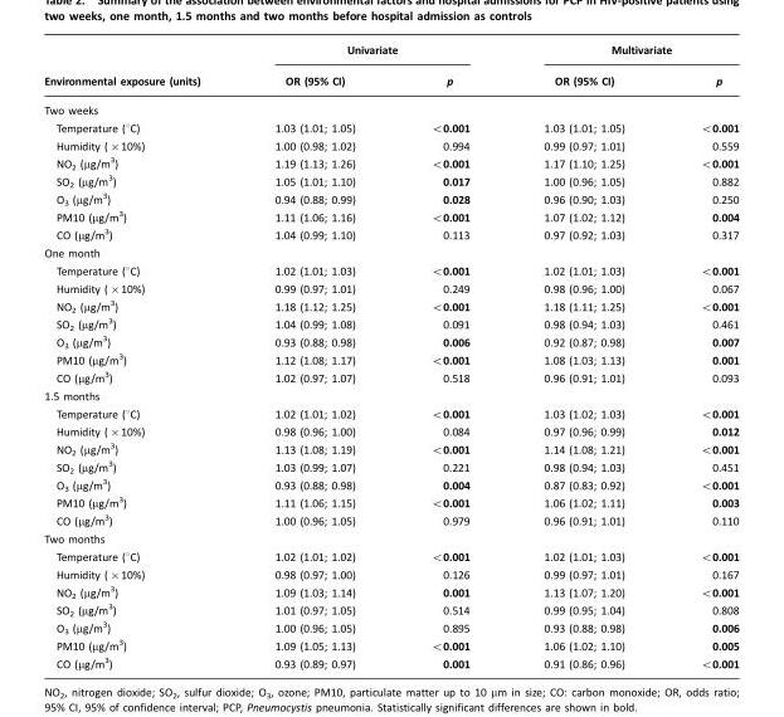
<table><thead><tr><td rowspan="2">Environmental exposure (units)</td><td colspan="2">Univariate</td><td colspan="2">Multivariate</td></tr><tr><td>OR (95% CI)</td><td>p</td><td>OR (95% CI)</td><td>p</td></tr></thead><tbody><tr><td colspan="5">Two weeks</td></tr><tr><td>Temperature (°C)</td><td>1.03 (1.01; 1.05)</td><td>&lt;0.001</td><td>1.03 (1.01; 1.05)</td><td>&lt;0.001</td></tr><tr><td>Humidity (×10%)</td><td>1.00 (0.98; 1.02)</td><td>0.994</td><td>0.99 (0.97; 1.01)</td><td>0.559</td></tr><tr><td>NO<sub>2</sub> (µg/m<sup>3</sup>)</td><td>1.19 (1.13; 1.26)</td><td>&lt;0.001</td><td>1.17 (1.10; 1.25)</td><td>&lt;0.001</td></tr><tr><td>SO<sub>2</sub> (µg/m<sup>3</sup>)</td><td>1.05 (1.01; 1.10)</td><td>0.017</td><td>1.00 (0.96; 1.05)</td><td>0.882</td></tr><tr><td>O<sub>3</sub> (µg/m<sup>3</sup>)</td><td>0.94 (0.88; 0.99)</td><td>0.028</td><td>0.96 (0.90; 1.03)</td><td>0.250</td></tr><tr><td>PM10 (µg/m<sup>3</sup>)</td><td>1.11 (1.06; 1.16)</td><td>&lt;0.001</td><td>1.07 (1.02; 1.12)</td><td>0.004</td></tr><tr><td>CO (µg/m<sup>3</sup>)</td><td>1.04 (0.99; 1.10)</td><td>0.113</td><td>0.97 (0.92; 1.03)</td><td>0.317</td></tr><tr><td colspan="5">One month</td></tr><tr><td>Temperature (°C)</td><td>1.02 (1.01; 1.03)</td><td>&lt;0.001</td><td>1.02 (1.01; 1.03)</td><td>&lt;0.001</td></tr><tr><td>Humidity (×10%)</td><td>0.99 (0.97; 1.01)</td><td>0.249</td><td>0.98 (0.96; 1.00)</td><td>0.067</td></tr><tr><td>NO<sub>2</sub> (µg/m<sup>3</sup>)</td><td>1.18 (1.12; 1.25)</td><td>&lt;0.001</td><td>1.18 (1.11; 1.25)</td><td>&lt;0.001</td></tr><tr><td>SO<sub>2</sub> (µg/m<sup>3</sup>)</td><td>1.04 (0.99; 1.08)</td><td>0.091</td><td>0.98 (0.94; 1.03)</td><td>0.461</td></tr><tr><td>O<sub>3</sub> (µg/m<sup>3</sup>)</td><td>0.93 (0.88; 0.98)</td><td>0.006</td><td>0.92 (0.87; 0.98)</td><td>0.007</td></tr><tr><td>PM10 (µg/m<sup>3</sup>)</td><td>1.12 (1.08; 1.17)</td><td>&lt;0.001</td><td>1.08 (1.03; 1.13)</td><td>0.001</td></tr><tr><td>CO (µg/m<sup>3</sup>)</td><td>1.02 (0.97; 1.07)</td><td>0.518</td><td>0.96 (0.91; 1.01)</td><td>0.093</td></tr><tr><td colspan="5">1.5 months</td></tr><tr><td>Temperature (°C)</td><td>1.02 (1.01; 1.02)</td><td>&lt;0.001</td><td>1.03 (1.02; 1.03)</td><td>&lt;0.001</td></tr><tr><td>Humidity (×10%)</td><td>0.98 (0.96; 1.00)</td><td>0.084</td><td>0.97 (0.96; 0.99)</td><td>0.012</td></tr><tr><td>NO<sub>2</sub> (µg/m<sup>3</sup>)</td><td>1.13 (1.08; 1.19)</td><td>&lt;0.001</td><td>1.14 (1.08; 1.21)</td><td>&lt;0.001</td></tr><tr><td>SO<sub>2</sub> (µg/m<sup>3</sup>)</td><td>1.03 (0.99; 1.07)</td><td>0.221</td><td>0.98 (0.94; 1.03)</td><td>0.451</td></tr><tr><td>O<sub>3</sub> (µg/m<sup>3</sup>)</td><td>0.93 (0.88; 0.98)</td><td>0.004</td><td>0.87 (0.83; 0.92)</td><td>&lt;0.001</td></tr><tr><td>PM10 (µg/m<sup>3</sup>)</td><td>1.11 (1.06; 1.15)</td><td>&lt;0.001</td><td>1.06 (1.02; 1.11)</td><td>0.003</td></tr><tr><td>CO (µg/m<sup>3</sup>)</td><td>1.00 (0.96; 1.05)</td><td>0.979</td><td>0.96 (0.91; 1.01)</td><td>0.110</td></tr><tr><td colspan="5">Two months</td></tr><tr><td>Temperature (°C)</td><td>1.02 (1.01; 1.02)</td><td>&lt;0.001</td><td>1.02 (1.01; 1.03)</td><td>&lt;0.001</td></tr><tr><td>Humidity (×10%)</td><td>0.98 (0.97; 1.00)</td><td>0.126</td><td>0.99 (0.97; 1.01)</td><td>0.167</td></tr><tr><td>NO<sub>2</sub> (µg/m<sup>3</sup>)</td><td>1.09 (1.03; 1.14)</td><td>0.001</td><td>1.13 (1.07; 1.20)</td><td>&lt;0.001</td></tr><tr><td>SO<sub>2</sub> (µg/m<sup>3</sup>)</td><td>1.01 (0.97; 1.05)</td><td>0.514</td><td>0.99 (0.95; 1.04)</td><td>0.808</td></tr><tr><td>O<sub>3</sub> (µg/m<sup>3</sup>)</td><td>1.00 (0.96; 1.05)</td><td>0.895</td><td>0.93 (0.88; 0.98)</td><td>0.006</td></tr><tr><td>PM10 (µg/m<sup>3</sup>)</td><td>1.09 (1.05; 1.13)</td><td>&lt;0.001</td><td>1.06 (1.02; 1.10)</td><td>0.005</td></tr><tr><td>CO (µg/m<sup>3</sup>)</td><td>0.93 (0.89; 0.97)</td><td>0.001</td><td>0.91 (0.86; 0.96)</td><td>&lt;0.001</td></tr></tbody></table>